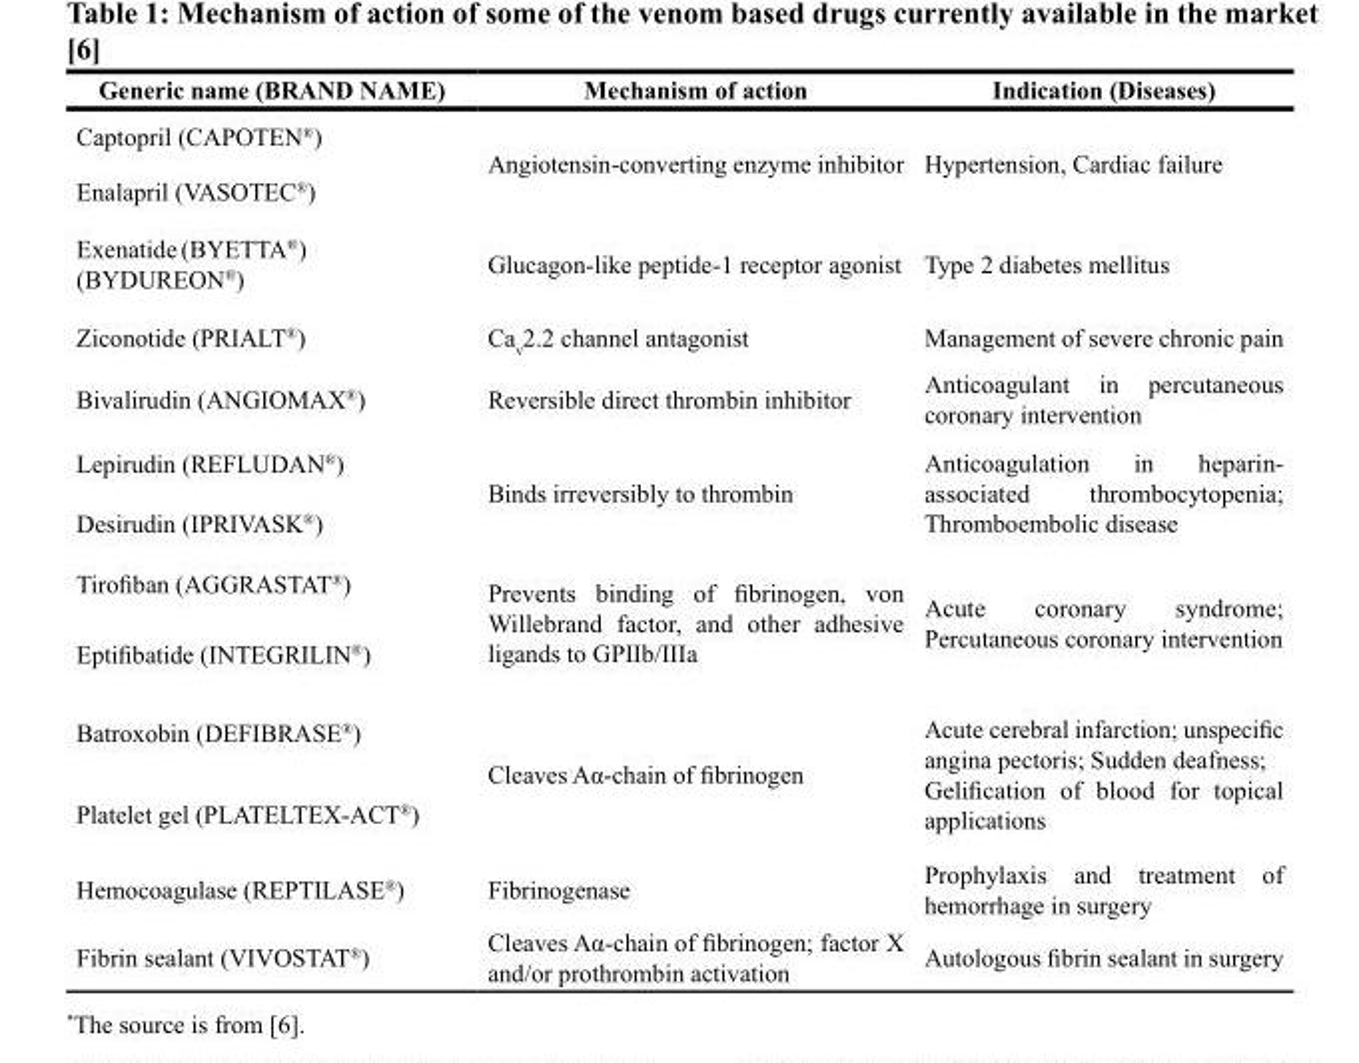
<table><thead><tr><td>Generic name (BRAND NAME)</td><td>Mechanism of action</td><td>Indication (Diseases)</td></tr></thead><tbody><tr><td>Captopril (CAPOTEN<sup>®</sup>)</td><td rowspan="2">Angiotensin-converting enzyme inhibitor</td><td rowspan="2">Hypertension, Cardiac failure</td></tr><tr><td>Enalapril (VASOTEC<sup>®</sup>)</td></tr><tr><td>Exenatide (BYETTA<sup>®</sup>) (BYDUREON<sup>®</sup>)</td><td>Glucagon-like peptide-1 receptor agonist</td><td>Type 2 diabetes mellitus</td></tr><tr><td>Ziconotide (PRIALT<sup>®</sup>)</td><td>Ca<sub>v</sub>2.2 channel antagonist</td><td>Management of severe chronic pain</td></tr><tr><td>Bivalirudin (ANGIOMAX<sup>®</sup>)</td><td>Reversible direct thrombin inhibitor</td><td>Anticoagulant in percutaneous coronary intervention</td></tr><tr><td>Lepirudin (REFLUDAN<sup>®</sup>)</td><td rowspan="2">Binds irreversibly to thrombin</td><td rowspan="2">Anticoagulation in heparin- associated thrombocytopenia; Thromboembolic disease</td></tr><tr><td>Desirudin (IPRIVASK<sup>®</sup>)</td></tr><tr><td>Tirofiban (AGGRASTAT<sup>®</sup>)</td><td rowspan="2">Prevents binding of fibrinogen, von Willebrand factor, and other adhesive ligands to GPIIb/IIIa</td><td rowspan="2">Acute coronary syndrome; Percutaneous coronary intervention</td></tr><tr><td>Eptifibatide (INTEGRILIN<sup>®</sup>)</td></tr><tr><td>Batroxobin (DEFIBRASE<sup>®</sup>)</td><td rowspan="2">Cleaves Aα-chain of fibrinogen</td><td rowspan="2">Acute cerebral infarction; unspecific angina pectoris; Sudden deafness; Gelification of blood for topical applications</td></tr><tr><td>Platelet gel (PLATELTEX-ACT<sup>®</sup>)</td></tr><tr><td>Hemocoagulase (REPTILASE<sup>®</sup>)</td><td>Fibrinogenase</td><td>Prophylaxis and treatment of hemorrhage in surgery</td></tr><tr><td>Fibrin sealant (VIVOSTAT<sup>®</sup>)</td><td>Cleaves Aα-chain of fibrinogen; factor X and/or prothrombin activation</td><td>Autologous fibrin sealant in surgery</td></tr></tbody></table>